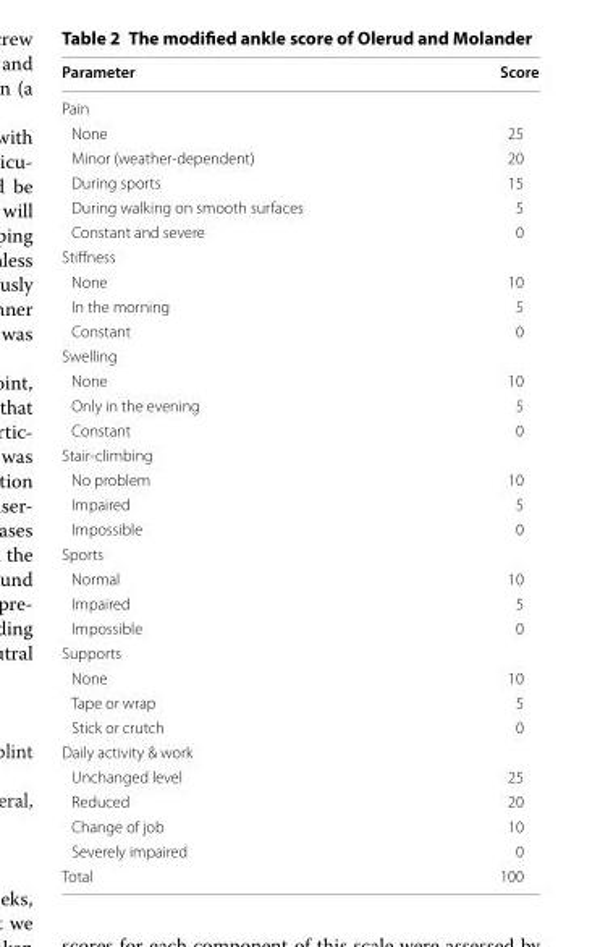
<table><thead><tr><td>Parameter</td><td>Score</td></tr></thead><tbody><tr><td colspan="2">Pain</td></tr><tr><td>None</td><td>25</td></tr><tr><td>Minor (weather-dependent)</td><td>20</td></tr><tr><td>During sports</td><td>15</td></tr><tr><td>During walking on smooth surfaces</td><td>5</td></tr><tr><td>Constant and severe</td><td>0</td></tr><tr><td colspan="2">Stiffness</td></tr><tr><td>None</td><td>10</td></tr><tr><td>In the morning</td><td>5</td></tr><tr><td>Constant</td><td>0</td></tr><tr><td colspan="2">Swelling</td></tr><tr><td>None</td><td>10</td></tr><tr><td>Only in the evening</td><td>5</td></tr><tr><td>Constant</td><td>0</td></tr><tr><td colspan="2">Stair-climbing</td></tr><tr><td>No problem</td><td>10</td></tr><tr><td>Impaired</td><td>5</td></tr><tr><td>Impossible</td><td>0</td></tr><tr><td colspan="2">Sports</td></tr><tr><td>Normal</td><td>10</td></tr><tr><td>Impaired</td><td>5</td></tr><tr><td>Impossible</td><td>0</td></tr><tr><td colspan="2">Supports</td></tr><tr><td>None</td><td>10</td></tr><tr><td>Tape or wrap</td><td>5</td></tr><tr><td>Stick or crutch</td><td>0</td></tr><tr><td colspan="2">Daily activity &amp; work</td></tr><tr><td>Unchanged level</td><td>25</td></tr><tr><td>Reduced</td><td>20</td></tr><tr><td>Change of job</td><td>10</td></tr><tr><td>Severely impaired</td><td>0</td></tr><tr><td>Total</td><td>100</td></tr></tbody></table>